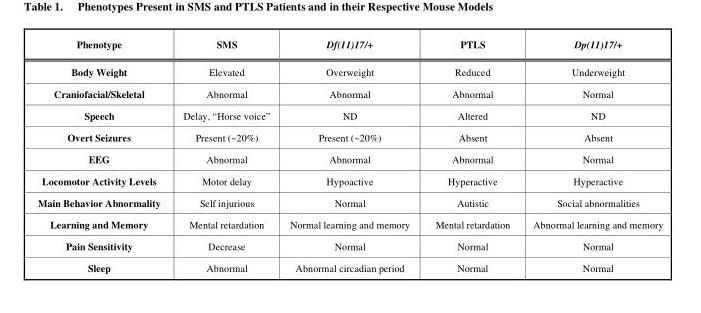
<table><thead><tr><td>Phenotype</td><td>SMS</td><td>Df(11)17/+</td><td>PTLS</td><td>Dp(11)17/+</td></tr></thead><tbody><tr><td>Body Weight</td><td>Elevated</td><td>Overweight</td><td>Reduced</td><td>Underweight</td></tr><tr><td>Craniofacial/Skeletal</td><td>Abnormal</td><td>Abnormal</td><td>Abnormal</td><td>Normal</td></tr><tr><td>Speech</td><td>Delay, “Horse voice”</td><td>ND</td><td>Altered</td><td>ND</td></tr><tr><td>Overt Seizures</td><td>Present (~20%)</td><td>Present (~20%)</td><td>Absent</td><td>Absent</td></tr><tr><td>EEG</td><td>Abnormal</td><td>Abnormal</td><td>Abnormal</td><td>Normal</td></tr><tr><td>Locomotor Activity Levels</td><td>Motor delay</td><td>Hypoactive</td><td>Hyperactive</td><td>Hyperactive</td></tr><tr><td>Main Behavior Abnormality</td><td>Self injurious</td><td>Normal</td><td>Autistic</td><td>Social abnormalities</td></tr><tr><td>Learning and Memory</td><td>Mental retardation</td><td>Normal learning and memory</td><td>Mental retardation</td><td>Abnormal learning and memory</td></tr><tr><td>Pain Sensitivity</td><td>Decrease</td><td>Normal</td><td>Normal</td><td>Normal</td></tr><tr><td>Sleep</td><td>Abnormal</td><td>Abnormal circadian period</td><td>Normal</td><td>Normal</td></tr></tbody></table>